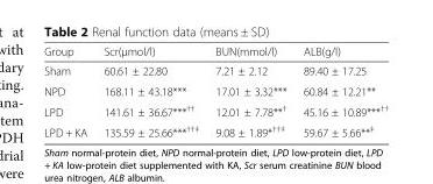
<table><thead><tr><td>Group</td><td>Scr(μmol/l)</td><td>BUN(mmol/l)</td><td>ALB(g/l)</td></tr></thead><tbody><tr><td>Sham</td><td>60.61 ± 22.80</td><td>7.21 ± 2.12</td><td>89.40 ± 17.25</td></tr><tr><td>NPD</td><td>168.11 ± 43.18***</td><td>17.01 ± 3.32***</td><td>60.84 ± 12.21**</td></tr><tr><td>LPD</td><td>141.61 ± 36.67***<sup>††</sup></td><td>12.01 ± 7.78**<sup>†</sup></td><td>45.16 ± 10.89***<sup>††</sup></td></tr><tr><td>LPD + KA</td><td>135.59 ± 25.66***<sup>††‡</sup></td><td>9.08 ± 1.89*<sup>††‡</sup></td><td>59.67 ± 5.66**<sup>‡</sup></td></tr></tbody></table>